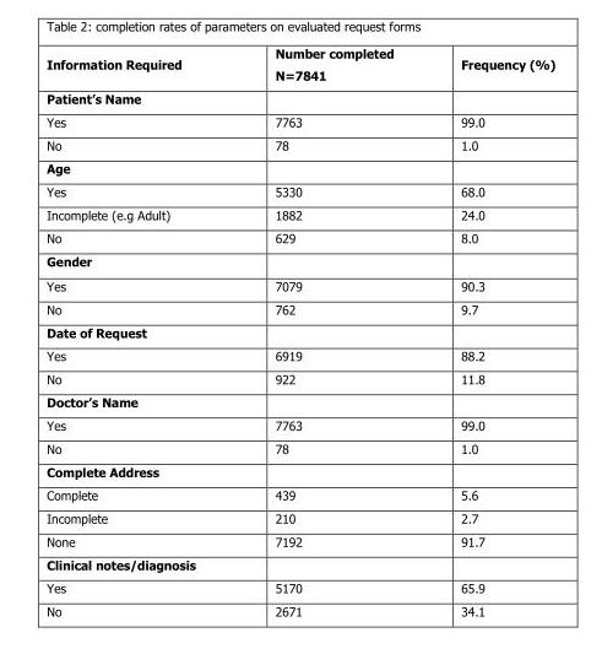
<table><thead><tr><td>Information Required</td><td>Number completed N=7841</td><td>Frequency (%)</td></tr></thead><tbody><tr><td colspan="3">Patient’s Name</td></tr><tr><td>Yes</td><td>7763</td><td>99.0</td></tr><tr><td>No</td><td>78</td><td>1.0</td></tr><tr><td colspan="3">Age</td></tr><tr><td>Yes</td><td>5330</td><td>68.0</td></tr><tr><td>Incomplete (e.g Adult)</td><td>1882</td><td>24.0</td></tr><tr><td>No</td><td>629</td><td>8.0</td></tr><tr><td colspan="3">Gender</td></tr><tr><td>Yes</td><td>7079</td><td>90.3</td></tr><tr><td>No</td><td>762</td><td>9.7</td></tr><tr><td colspan="3">Date of Request</td></tr><tr><td>Yes</td><td>6919</td><td>88.2</td></tr><tr><td>No</td><td>922</td><td>11.8</td></tr><tr><td colspan="3">Doctor’s Name</td></tr><tr><td>Yes</td><td>7763</td><td>99.0</td></tr><tr><td>No</td><td>78</td><td>1.0</td></tr><tr><td colspan="3">Complete Address</td></tr><tr><td>Complete</td><td>439</td><td>5.6</td></tr><tr><td>Incomplete</td><td>210</td><td>2.7</td></tr><tr><td>None</td><td>7192</td><td>91.7</td></tr><tr><td colspan="3">Clinical notes/diagnosis</td></tr><tr><td>Yes</td><td>5170</td><td>65.9</td></tr><tr><td>No</td><td>2671</td><td>34.1</td></tr></tbody></table>